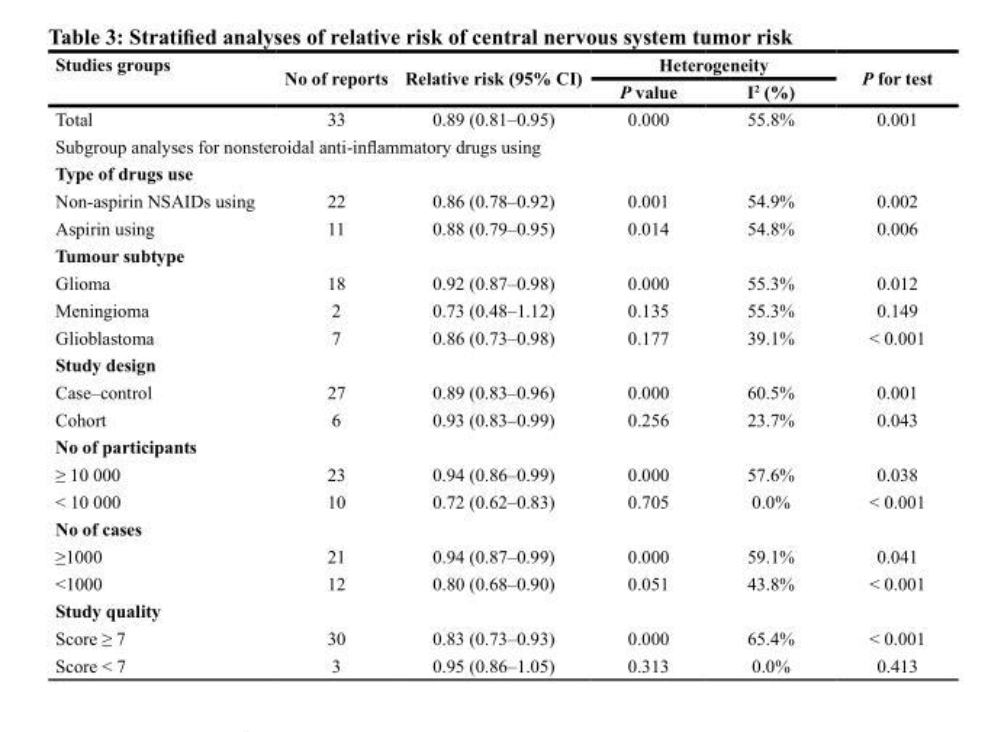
<table><thead><tr><td rowspan="2">Studies groups</td><td rowspan="2">No of reports</td><td rowspan="2">Relative risk (95% CI)</td><td colspan="2">Heterogeneity</td><td rowspan="2">P for test</td></tr><tr><td>P value</td><td>I<sup>2</sup> (%)</td></tr></thead><tbody><tr><td>Total</td><td>33</td><td>0.89 (0.81–0.95)</td><td>0.000</td><td>55.8%</td><td>0.001</td></tr><tr><td colspan="6">Subgroup analyses for nonsteroidal anti-inflammatory drugs using</td></tr><tr><td colspan="6">Type of drugs use</td></tr><tr><td>Non-aspirin NSAIDs using</td><td>22</td><td>0.86 (0.78–0.92)</td><td>0.001</td><td>54.9%</td><td>0.002</td></tr><tr><td>Aspirin using</td><td>11</td><td>0.88 (0.79–0.95)</td><td>0.014</td><td>54.8%</td><td>0.006</td></tr><tr><td colspan="6">Tumour subtype</td></tr><tr><td>Glioma</td><td>18</td><td>0.92 (0.87–0.98)</td><td>0.000</td><td>55.3%</td><td>0.012</td></tr><tr><td>Meningioma</td><td>2</td><td>0.73 (0.48–1.12)</td><td>0.135</td><td>55.3%</td><td>0.149</td></tr><tr><td>Glioblastoma</td><td>7</td><td>0.86 (0.73–0.98)</td><td>0.177</td><td>39.1%</td><td>&lt; 0.001</td></tr><tr><td colspan="6">Study design</td></tr><tr><td>Case–control</td><td>27</td><td>0.89 (0.83–0.96)</td><td>0.000</td><td>60.5%</td><td>0.001</td></tr><tr><td>Cohort</td><td>6</td><td>0.93 (0.83–0.99)</td><td>0.256</td><td>23.7%</td><td>0.043</td></tr><tr><td colspan="6">No of participants</td></tr><tr><td>≥ 10 000</td><td>23</td><td>0.94 (0.86–0.99)</td><td>0.000</td><td>57.6%</td><td>0.038</td></tr><tr><td>&lt; 10 000</td><td>10</td><td>0.72 (0.62–0.83)</td><td>0.705</td><td>0.0%</td><td>&lt; 0.001</td></tr><tr><td colspan="6">No of cases</td></tr><tr><td>≥1000</td><td>21</td><td>0.94 (0.87–0.99)</td><td>0.000</td><td>59.1%</td><td>0.041</td></tr><tr><td>&lt;1000</td><td>12</td><td>0.80 (0.68–0.90)</td><td>0.051</td><td>43.8%</td><td>&lt; 0.001</td></tr><tr><td colspan="6">Study quality</td></tr><tr><td>Score ≥ 7</td><td>30</td><td>0.83 (0.73–0.93)</td><td>0.000</td><td>65.4%</td><td>&lt; 0.001</td></tr><tr><td>Score &lt; 7</td><td>3</td><td>0.95 (0.86–1.05)</td><td>0.313</td><td>0.0%</td><td>0.413</td></tr></tbody></table>